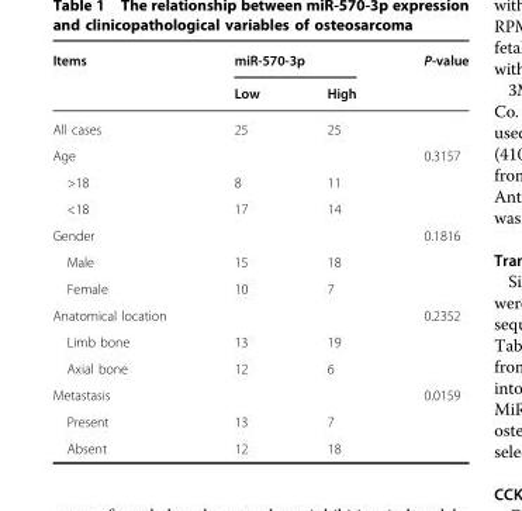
<table><thead><tr><td rowspan="2">Items</td><td colspan="2">miR-570-3p</td><td rowspan="2">P-value</td></tr><tr><td>Low</td><td>High</td></tr></thead><tbody><tr><td>All cases</td><td>25</td><td>25</td><td></td></tr><tr><td>Age</td><td></td><td></td><td>0.3157</td></tr><tr><td>&gt;18</td><td>8</td><td>11</td><td></td></tr><tr><td>&lt;18</td><td>17</td><td>14</td><td></td></tr><tr><td>Gender</td><td></td><td></td><td>0.1816</td></tr><tr><td>Male</td><td>15</td><td>18</td><td></td></tr><tr><td>Female</td><td>10</td><td>7</td><td></td></tr><tr><td>Anatomical location</td><td></td><td></td><td>0.2352</td></tr><tr><td>Limb bone</td><td>13</td><td>19</td><td></td></tr><tr><td>Axial bone</td><td>12</td><td>6</td><td></td></tr><tr><td>Metastasis</td><td></td><td></td><td>0.0159</td></tr><tr><td>Present</td><td>13</td><td>7</td><td></td></tr><tr><td>Absent</td><td>12</td><td>18</td><td></td></tr></tbody></table>